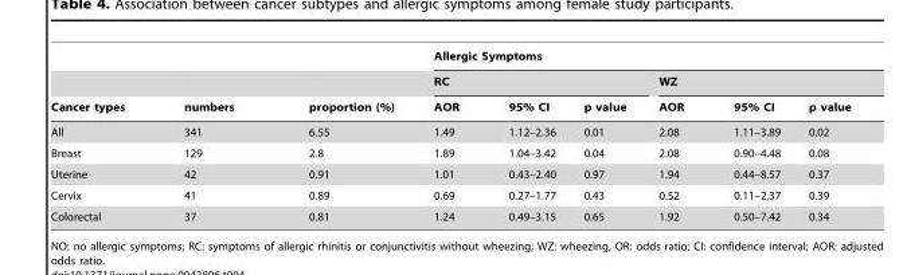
<table><thead><tr><td rowspan="3">Cancer types</td><td rowspan="3">numbers</td><td rowspan="3">proportion (%)</td><td colspan="6">Allergic Symptoms</td></tr><tr><td colspan="3">RC</td><td colspan="3">WZ</td></tr><tr><td>AOR</td><td>95% CI</td><td>p value</td><td>AOR</td><td>95% CI</td><td>p value</td></tr></thead><tbody><tr><td>All</td><td>341</td><td>6.55</td><td>1.49</td><td>1.12–2.36</td><td>0.01</td><td>2.08</td><td>1.11–3.89</td><td>0.02</td></tr><tr><td>Breast</td><td>129</td><td>2.8</td><td>1.89</td><td>1.04–3.42</td><td>0.04</td><td>2.08</td><td>0.90–4.48</td><td>0.08</td></tr><tr><td>Uterine</td><td>42</td><td>0.91</td><td>1.01</td><td>0.43–2.40</td><td>0.97</td><td>1.94</td><td>0.44–8.57</td><td>0.37</td></tr><tr><td>Cervix</td><td>41</td><td>0.89</td><td>0.69</td><td>0.27–1.77</td><td>0.43</td><td>0.52</td><td>0.11–2.37</td><td>0.39</td></tr><tr><td>Colorectal</td><td>37</td><td>0.81</td><td>1.24</td><td>0.49–3.15</td><td>0.65</td><td>1.92</td><td>0.50–7.42</td><td>0.34</td></tr></tbody></table>